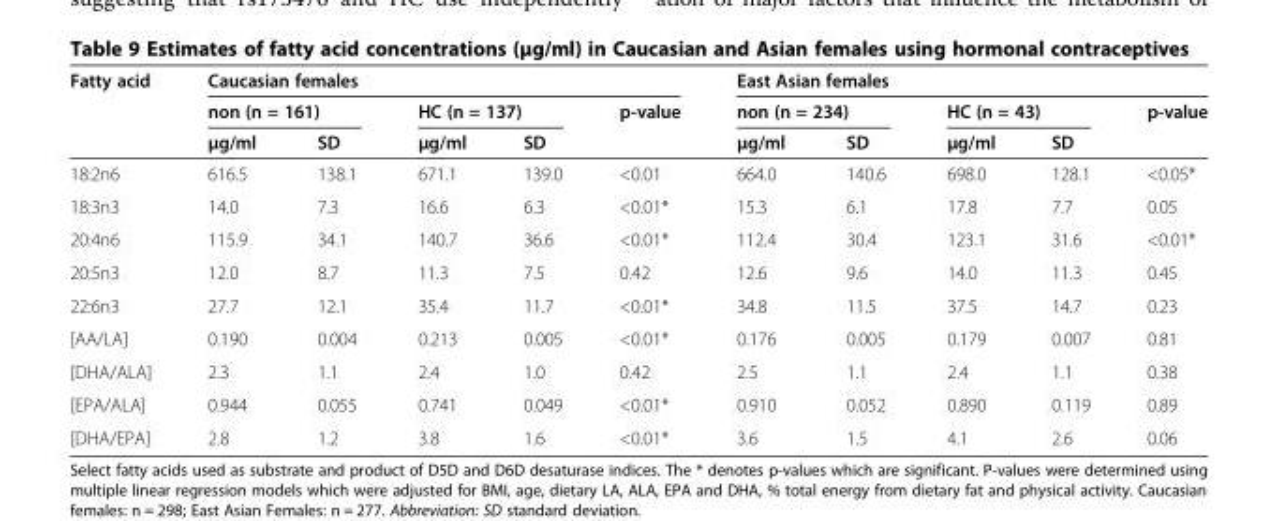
<table><thead><tr><td rowspan="3">Fatty acid</td><td colspan="5">Caucasian females</td><td colspan="5">East Asian females</td></tr><tr><td colspan="2">non (n = 161)</td><td colspan="2">HC (n = 137)</td><td rowspan="2">p-value</td><td colspan="2">non (n = 234)</td><td colspan="2">HC (n = 43)</td><td rowspan="2">p-value</td></tr><tr><td>μg/ml</td><td>SD</td><td>μg/ml</td><td>SD</td><td>μg/ml</td><td>SD</td><td>μg/ml</td><td>SD</td></tr></thead><tbody><tr><td>18:2n6</td><td>616.5</td><td>138.1</td><td>671.1</td><td>139.0</td><td>&lt;0.01</td><td>664.0</td><td>140.6</td><td>698.0</td><td>128.1</td><td>&lt;0.05*</td></tr><tr><td>18:3n3</td><td>14.0</td><td>7.3</td><td>16.6</td><td>6.3</td><td>&lt;0.01*</td><td>15.3</td><td>6.1</td><td>17.8</td><td>7.7</td><td>0.05</td></tr><tr><td>20:4n6</td><td>115.9</td><td>34.1</td><td>140.7</td><td>36.6</td><td>&lt;0.01*</td><td>112.4</td><td>30.4</td><td>123.1</td><td>31.6</td><td>&lt;0.01*</td></tr><tr><td>20:5n3</td><td>12.0</td><td>8.7</td><td>11.3</td><td>7.5</td><td>0.42</td><td>12.6</td><td>9.6</td><td>14.0</td><td>11.3</td><td>0.45</td></tr><tr><td>22:6n3</td><td>27.7</td><td>12.1</td><td>35.4</td><td>11.7</td><td>&lt;0.01*</td><td>34.8</td><td>11.5</td><td>37.5</td><td>14.7</td><td>0.23</td></tr><tr><td>[AA/LA]</td><td>0.190</td><td>0.004</td><td>0.213</td><td>0.005</td><td>&lt;0.01*</td><td>0.176</td><td>0.005</td><td>0.179</td><td>0.007</td><td>0.81</td></tr><tr><td>[DHA/ALA]</td><td>2.3</td><td>1.1</td><td>2.4</td><td>1.0</td><td>0.42</td><td>2.5</td><td>1.1</td><td>2.4</td><td>1.1</td><td>0.38</td></tr><tr><td>[EPA/ALA]</td><td>0.944</td><td>0.055</td><td>0.741</td><td>0.049</td><td>&lt;0.01*</td><td>0.910</td><td>0.052</td><td>0.890</td><td>0.119</td><td>0.89</td></tr><tr><td>[DHA/EPA]</td><td>2.8</td><td>1.2</td><td>3.8</td><td>1.6</td><td>&lt;0.01*</td><td>3.6</td><td>1.5</td><td>4.1</td><td>2.6</td><td>0.06</td></tr></tbody></table>